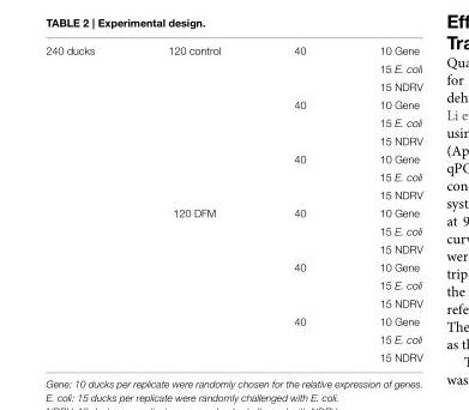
<table><tbody><tr><td rowspan="18">240 ducks</td><td>120 control</td><td>40</td><td>10 Gene</td></tr><tr><td></td><td></td><td>15 E. coli</td></tr><tr><td></td><td></td><td>15 NDRV</td></tr><tr><td></td><td>40</td><td>10 Gene</td></tr><tr><td></td><td></td><td>15 E. coli</td></tr><tr><td></td><td></td><td>15 NDRV</td></tr><tr><td></td><td>40</td><td>10 Gene</td></tr><tr><td></td><td></td><td>15 E. coli</td></tr><tr><td></td><td></td><td>15 NDRV</td></tr><tr><td>120 DFM</td><td>40</td><td>10 Gene</td></tr><tr><td></td><td></td><td>15 E. coli</td></tr><tr><td></td><td></td><td>15 NDRV</td></tr><tr><td></td><td>40</td><td>10 Gene</td></tr><tr><td></td><td></td><td>15 E. coli</td></tr><tr><td></td><td></td><td>15 NDRV</td></tr><tr><td></td><td>40</td><td>10 Gene</td></tr><tr><td></td><td></td><td>15 E. coli</td></tr><tr><td></td><td></td><td>15 NDRV</td></tr></tbody></table>